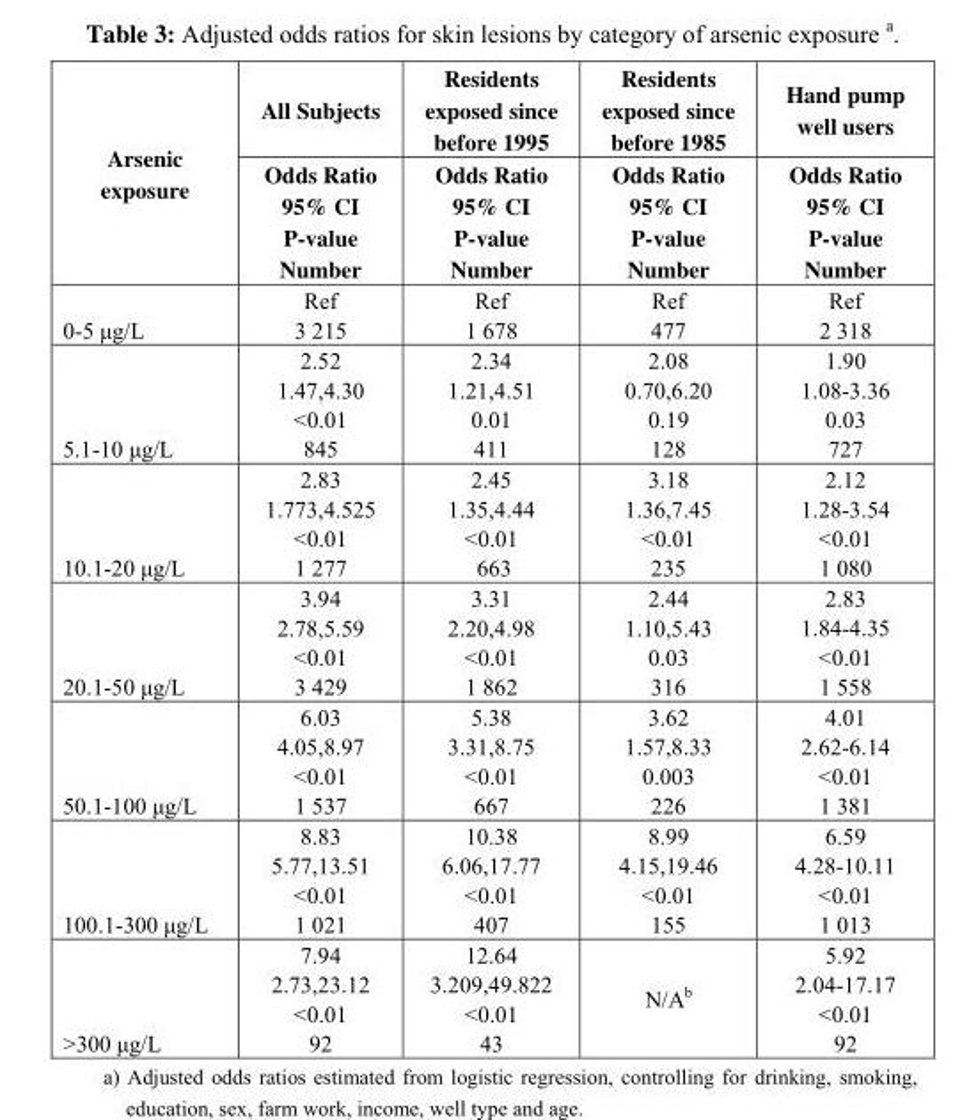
<table><thead><tr><td rowspan="2">Arsenic exposure</td><td rowspan="2">All Subjects Odds Ratio 95% CI P-value Number</td><td rowspan="2">Residents exposed since before 1995 Odds Ratio 95% CI P-value Number</td><td rowspan="2">Residents exposed since before 1985 Odds Ratio 95% CI P-value Number</td><td rowspan="2">Hand pump well users Odds Ratio 95% CI P-value Number</td></tr><tr></tr></thead><tbody><tr><td>0-5 μg/L</td><td>Ref 3 215</td><td>Ref 1 678</td><td>Ref 477</td><td>Ref 2 318</td></tr><tr><td>5.1-10 μg/L</td><td>2.52 1.47,4.30 &lt;0.01 845</td><td>2.34 1.21,4.51 0.01 411</td><td>2.08 0.70,6.20 0.19 128</td><td>1.90 1.08-3.36 0.03 727</td></tr><tr><td>10.1-20 μg/L</td><td>2.83 1.773,4.525 &lt;0.01 1 277</td><td>2.45 1.35,4.44 &lt;0.01 663</td><td>3.18 1.36,7.45 &lt;0.01 235</td><td>2.12 1.28-3.54 &lt;0.01 1 080</td></tr><tr><td>20.1-50 μg/L</td><td>3.94 2.78,5.59 &lt;0.01 3 429</td><td>3.31 2.20,4.98 &lt;0.01 1 862</td><td>2.44 1.10,5.43 0.03 316</td><td>2.83 1.84-4.35 &lt;0.01 1 558</td></tr><tr><td>50.1-100 μg/L</td><td>6.03 4.05,8.97 &lt;0.01 1 537</td><td>5.38 3.31,8.75 &lt;0.01 667</td><td>3.62 1.57,8.33 0.003 226</td><td>4.01 2.62-6.14 &lt;0.01 1 381</td></tr><tr><td>100.1-300 μg/L</td><td>8.83 5.77,13.51 &lt;0.01 1 021</td><td>10.38 6.06,17.77 &lt;0.01 407</td><td>8.99 4.15,19.46 &lt;0.01 155</td><td>6.59 4.28-10.11 &lt;0.01 1 013</td></tr><tr><td>&gt;300 μg/L</td><td>7.94 2.73,23.12 &lt;0.01 92</td><td>12.64 3.209,49.822 &lt;0.01 43</td><td>N/A<sup>b</sup></td><td>5.92 2.04-17.17 &lt;0.01 92</td></tr></tbody></table>